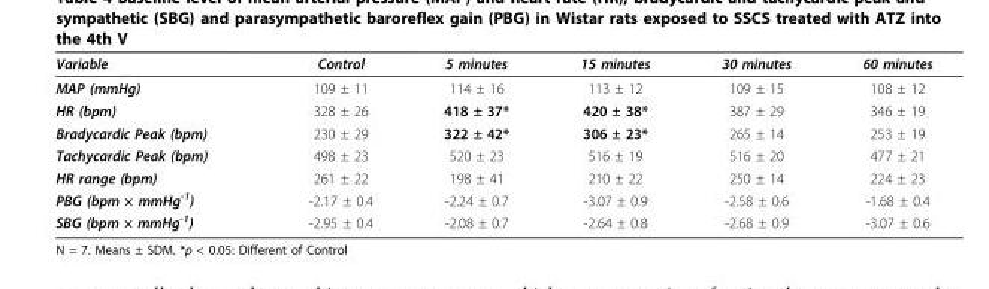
<table><thead><tr><td>Variable</td><td>Control</td><td>5 minutes</td><td>15 minutes</td><td>30 minutes</td><td>60 minutes</td></tr></thead><tbody><tr><td>MAP (mmHg)</td><td>109 ± 11</td><td>114 ± 16</td><td>113 ± 12</td><td>109 ± 15</td><td>108 ± 12</td></tr><tr><td>HR (bpm)</td><td>328 ± 26</td><td>418 ± 37*</td><td>420 ± 38*</td><td>387 ± 29</td><td>346 ± 19</td></tr><tr><td>Bradycardic Peak (bpm)</td><td>230 ± 29</td><td>322 ± 42*</td><td>306 ± 23*</td><td>265 ± 14</td><td>253 ± 19</td></tr><tr><td>Tachycardic Peak (bpm)</td><td>498 ± 23</td><td>520 ± 23</td><td>516 ± 19</td><td>516 ± 20</td><td>477 ± 21</td></tr><tr><td>HR range (bpm)</td><td>261 ± 22</td><td>198 ± 41</td><td>210 ± 22</td><td>250 ± 14</td><td>224 ± 23</td></tr><tr><td>PBG (bpm × mmHg<sup>-1</sup>)</td><td>-2.17 ± 0.4</td><td>-2.24 ± 0.7</td><td>-3.07 ± 0.9</td><td>-2.58 ± 0.6</td><td>-1.68 ± 0.4</td></tr><tr><td>SBG (bpm × mmHg<sup>-1</sup>)</td><td>-2.95 ± 0.4</td><td>-2.08 ± 0.7</td><td>-2.64 ± 0.8</td><td>-2.68 ± 0.9</td><td>-3.07 ± 0.6</td></tr></tbody></table>